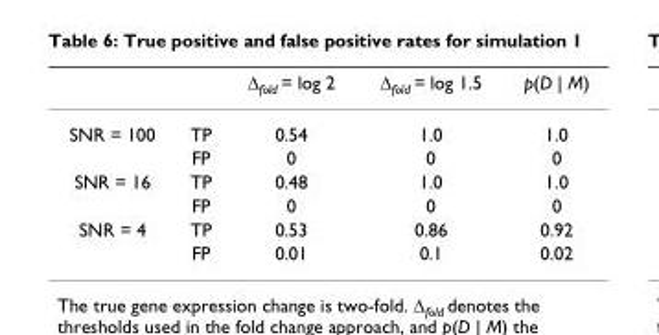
<table><thead><tr><td></td><td></td><td>∆fold = log 2</td><td>∆fold = log 1.5</td><td>p(D | M)</td></tr></thead><tbody><tr><td rowspan="2">SNR = 100</td><td>TP</td><td>0.54</td><td>1.0</td><td>1.0</td></tr><tr><td>FP</td><td>0</td><td>0</td><td>0</td></tr><tr><td rowspan="2">SNR = 16</td><td>TP</td><td>0.48</td><td>1.0</td><td>1.0</td></tr><tr><td>FP</td><td>0</td><td>0</td><td>0</td></tr><tr><td rowspan="2">SNR = 4</td><td>TP</td><td>0.53</td><td>0.86</td><td>0.92</td></tr><tr><td>FP</td><td>0.01</td><td>0.1</td><td>0.02</td></tr></tbody></table>